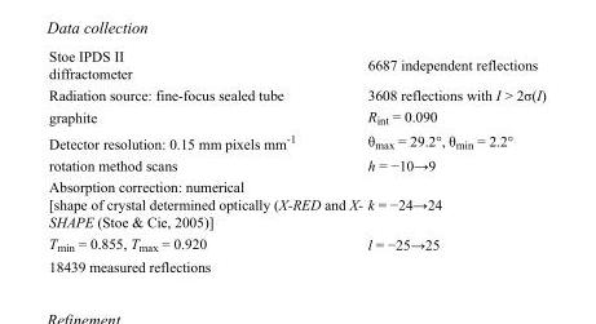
<table><tbody><tr><td>Stoe IPDS II diffractometer</td><td>6687 independent reflections</td></tr><tr><td>Radiation source: fine-focus sealed tube</td><td>3608 reflections with I &gt; 2σ(I)</td></tr><tr><td>graphite</td><td>R<sub>int</sub> = 0.090</td></tr><tr><td>Detector resolution: 0.15 mm pixels mm<sup>-1</sup></td><td>θ<sub>max</sub> = 29.2°, θ<sub>min</sub> = 2.2°</td></tr><tr><td>rotation method scans</td><td>h = −10→9</td></tr><tr><td>Absorption correction: numerical [shape of crystal determined optically (X-RED and X- SHAPE (Stoe &amp; Cie, 2005)]</td><td>k = −24→24</td></tr><tr><td>T<sub>min</sub> = 0.855, T<sub>max</sub> = 0.920</td><td>l = −25→25</td></tr><tr><td>18439 measured reflections</td><td></td></tr></tbody></table>